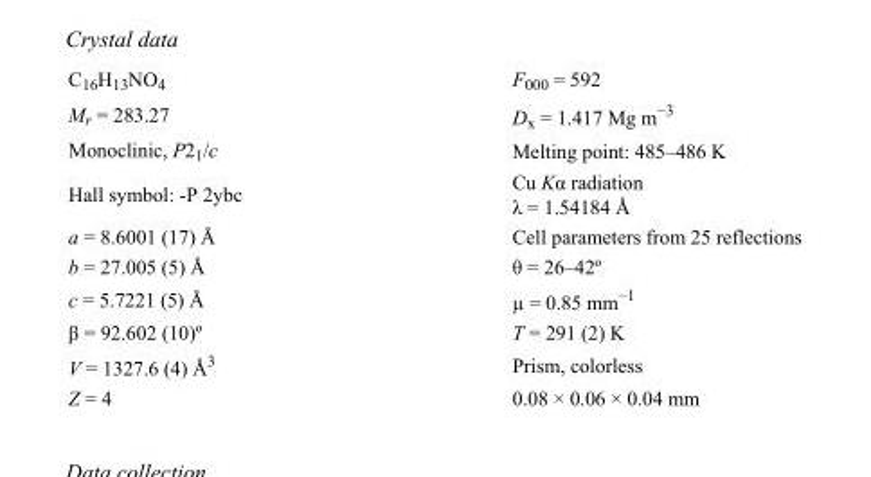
<table><tbody><tr><td>C<sub>16</sub>H<sub>13</sub>NO<sub>4</sub></td><td>F<sub>000</sub> = 592</td></tr><tr><td>M<sub>r</sub> = 283.27</td><td>D<sub>x</sub> = 1.417 Mg m<sup>−3</sup></td></tr><tr><td>Monoclinic, P2<sub>1</sub>/c</td><td>Melting point= 485–486 K</td></tr><tr><td>Hall symbol: -P 2ybc</td><td>Cu Kα radiation λ = 1.54184 Å</td></tr><tr><td>a = 8.6001 (17) Å</td><td>Cell parameters from 25 reflections</td></tr><tr><td>b = 27.005 (5) Å</td><td>θ = 26–42º</td></tr><tr><td>c = 5.7221 (5) Å</td><td>µ = 0.85 mm<sup>−1</sup></td></tr><tr><td>β = 92.602 (10)º</td><td>T = 291 (2) K</td></tr><tr><td>V = 1327.6 (4) Å<sup>3</sup></td><td>Prism, colorless</td></tr><tr><td>Z = 4</td><td>0.08 × 0.06 × 0.04 mm</td></tr></tbody></table>